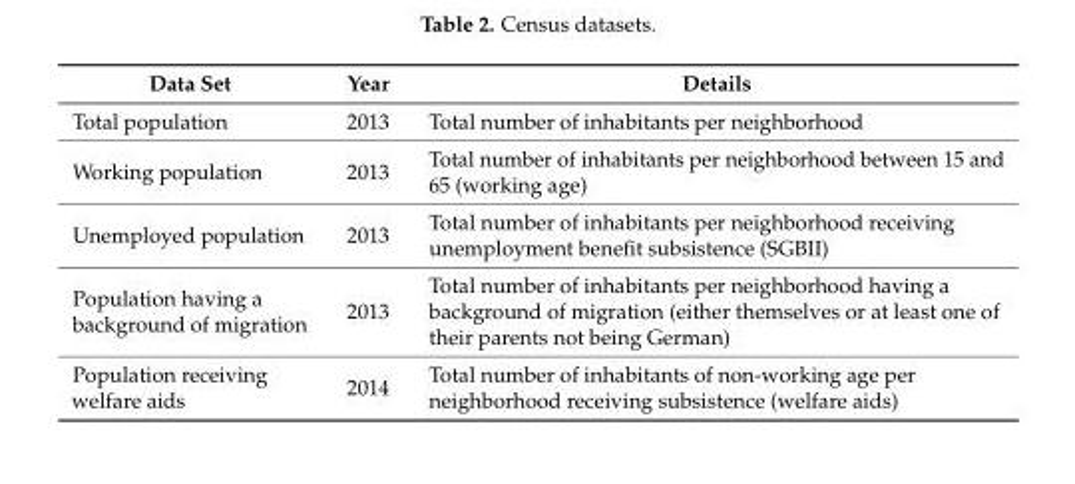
<table><thead><tr><td>Data Set</td><td>Year</td><td>Details</td></tr></thead><tbody><tr><td>Total population</td><td>2013</td><td>Total number of inhabitants per neighborhood</td></tr><tr><td>Working population</td><td>2013</td><td>Total number of inhabitants per neighborhood between 15 and 65 (working age)</td></tr><tr><td>Unemployed population</td><td>2013</td><td>Total number of inhabitants per neighborhood receiving unemployment benefit subsistence (SGBII)</td></tr><tr><td>Population having a background of migration</td><td>2013</td><td>Total number of inhabitants per neighborhood having a background of migration (either themselves or at least one of their parents not being German)</td></tr><tr><td>Population receiving welfare aids</td><td>2014</td><td>Total number of inhabitants of non-working age per neighborhood receiving subsistence (welfare aids)</td></tr></tbody></table>